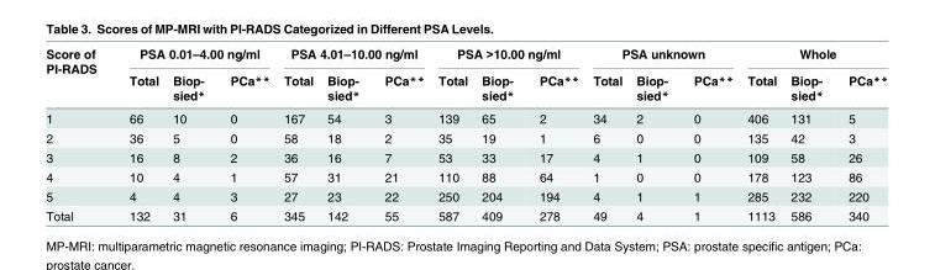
<table><thead><tr><td rowspan="2">Score of PI-RADS</td><td colspan="3">PSA 0.01–4.00 ng/ml</td><td colspan="3">PSA 4.01–10.00 ng/ml</td><td colspan="3">PSA &gt;10.00 ng/ml</td><td colspan="3">PSA unknown</td><td colspan="3">Whole</td></tr><tr><td>Total</td><td>Biop- sied*</td><td>PCa**</td><td>Total</td><td>Biop- sied*</td><td>PCa**</td><td>Total</td><td>Biop- sied*</td><td>PCa**</td><td>Total</td><td>Biop- sied*</td><td>PCa**</td><td>Total</td><td>Biop- sied*</td><td>PCa**</td></tr></thead><tbody><tr><td>1</td><td>66</td><td>10</td><td>0</td><td>167</td><td>54</td><td>3</td><td>139</td><td>65</td><td>2</td><td>34</td><td>2</td><td>0</td><td>406</td><td>131</td><td>5</td></tr><tr><td>2</td><td>36</td><td>5</td><td>0</td><td>58</td><td>18</td><td>2</td><td>35</td><td>19</td><td>1</td><td>6</td><td>0</td><td>0</td><td>135</td><td>42</td><td>3</td></tr><tr><td>3</td><td>16</td><td>8</td><td>2</td><td>36</td><td>16</td><td>7</td><td>53</td><td>33</td><td>17</td><td>4</td><td>1</td><td>0</td><td>109</td><td>58</td><td>26</td></tr><tr><td>4</td><td>10</td><td>4</td><td>1</td><td>57</td><td>31</td><td>21</td><td>110</td><td>88</td><td>64</td><td>1</td><td>0</td><td>0</td><td>178</td><td>123</td><td>86</td></tr><tr><td>5</td><td>4</td><td>4</td><td>3</td><td>27</td><td>23</td><td>22</td><td>250</td><td>204</td><td>194</td><td>4</td><td>1</td><td>1</td><td>285</td><td>232</td><td>220</td></tr><tr><td>Total</td><td>132</td><td>31</td><td>6</td><td>345</td><td>142</td><td>55</td><td>587</td><td>409</td><td>278</td><td>49</td><td>4</td><td>1</td><td>1113</td><td>586</td><td>340</td></tr></tbody></table>